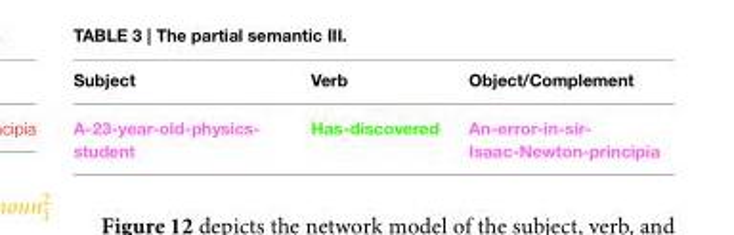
<table><thead><tr><td>Subject</td><td>Verb</td><td>Object/Complement</td></tr></thead><tbody><tr><td>A-23-year-old-physics- student</td><td>Has-discovered</td><td>An-error-in-sir- Isaac-Newton-principia</td></tr></tbody></table>